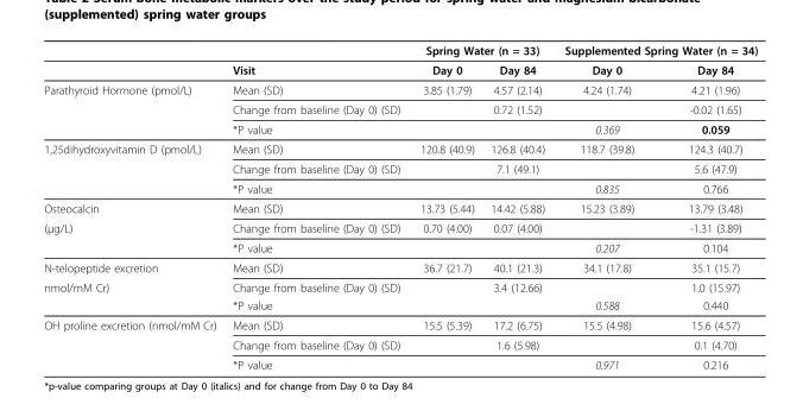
<table><thead><tr><td rowspan="2"></td><td rowspan="2">Visit</td><td colspan="2">Spring Water (n = 33)</td><td colspan="2">Supplemented Spring Water (n = 34)</td></tr><tr><td>Day 0</td><td>Day 84</td><td>Day 0</td><td>Day 84</td></tr></thead><tbody><tr><td rowspan="3">Parathyroid Hormone (pmol/L)</td><td>Mean (SD)</td><td>3.85 (1.79)</td><td>4.57 (2.14)</td><td>4.24 (1.74)</td><td>4.21 (1.96)</td></tr><tr><td>Change from baseline (Day 0) (SD)</td><td></td><td>0.72 (1.52)</td><td></td><td>-0.02 (1.65)</td></tr><tr><td>*P value</td><td></td><td></td><td>0.369</td><td>0.059</td></tr><tr><td rowspan="3">1,25dihydroxyvitamin D (pmol/L)</td><td>Mean (SD)</td><td>120.8 (40.9)</td><td>126.8 (40.4)</td><td>118.7 (39.8)</td><td>124.3 (40.7)</td></tr><tr><td>Change from baseline (Day 0) (SD)</td><td></td><td>7.1 (49.1)</td><td></td><td>5.6 (47.9)</td></tr><tr><td>*P value</td><td></td><td></td><td>0.835</td><td>0.766</td></tr><tr><td>Osteocalcin</td><td>Mean (SD)</td><td>13.73 (5.44)</td><td>14.42 (5.88)</td><td>15.23 (3.89)</td><td>13.79 (3.48)</td></tr><tr><td rowspan="2">(μg/L)</td><td>Change from baseline (Day 0) (SD)</td><td>0.70 (4.00)</td><td>0.07 (4.00)</td><td></td><td>-1.31 (3.89)</td></tr><tr><td>*P value</td><td></td><td></td><td>0.207</td><td>0.104</td></tr><tr><td>N-telopeptide excretion</td><td>Mean (SD)</td><td>36.7 (21.7)</td><td>40.1 (21.3)</td><td>34.1 (17.8)</td><td>35.1 (15.7)</td></tr><tr><td rowspan="2">nmol/mM Cr)</td><td>Change from baseline (Day 0) (SD)</td><td></td><td>3.4 (12.66)</td><td></td><td>1.0 (15.97)</td></tr><tr><td>*P value</td><td></td><td></td><td>0.588</td><td>0.440</td></tr><tr><td rowspan="3">OH proline excretion (nmol/mM Cr)</td><td>Mean (SD)</td><td>15.5 (5.39)</td><td>17.2 (6.75)</td><td>15.5 (4.98)</td><td>15.6 (4.57)</td></tr><tr><td>Change from baseline (Day 0) (SD)</td><td></td><td>1.6 (5.98)</td><td></td><td>0.1 (4.70)</td></tr><tr><td>*P value</td><td></td><td></td><td>0.971</td><td>0.216</td></tr></tbody></table>